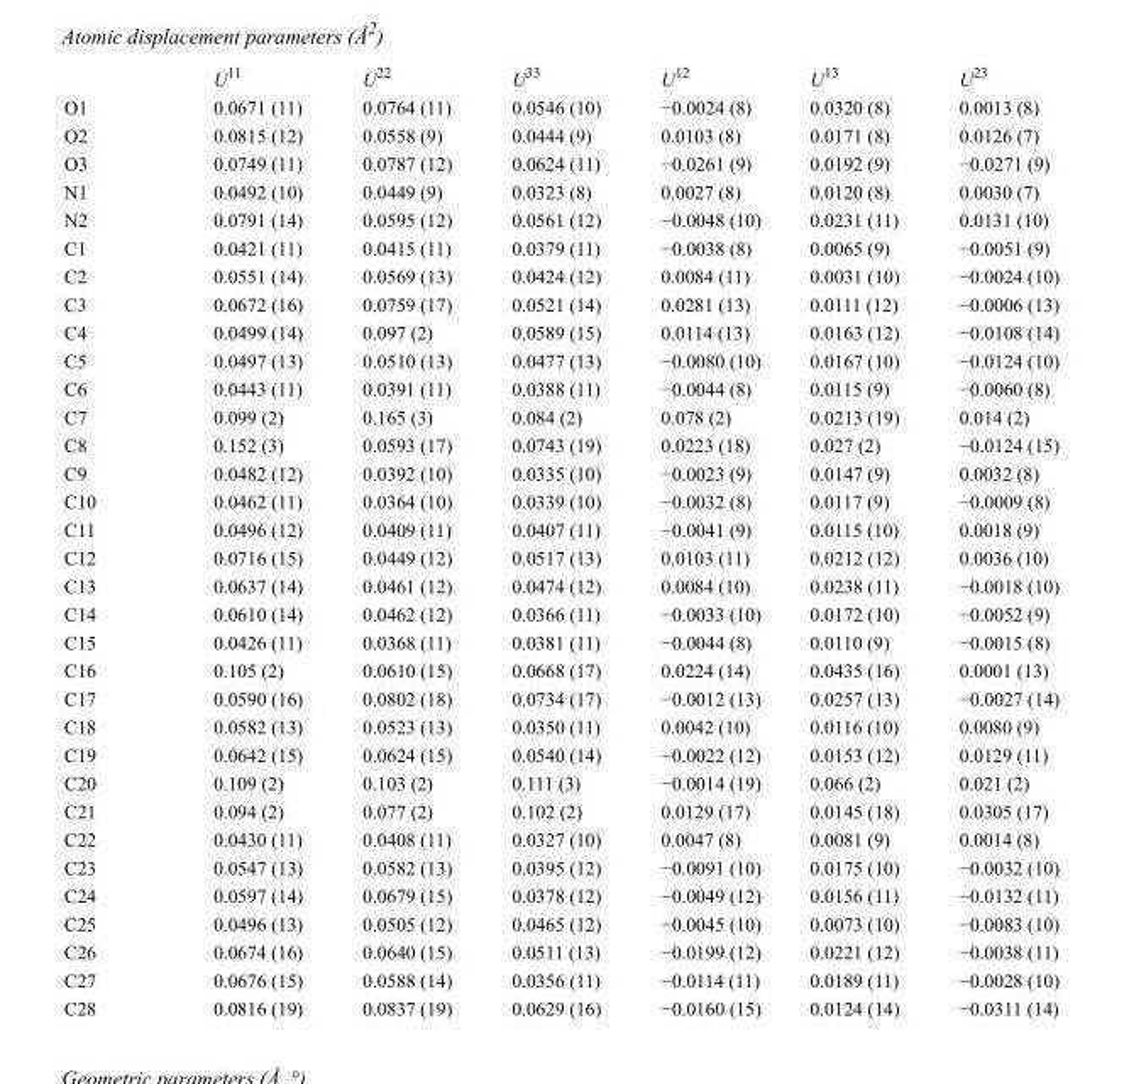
<table><thead><tr><td></td><td>U<sup>11</sup></td><td>U<sup>22</sup></td><td>U<sup>33</sup></td><td>U<sup>12</sup></td><td>U<sup>13</sup></td><td>U<sup>23</sup></td></tr></thead><tbody><tr><td>O1</td><td>0.0671 (11)</td><td>0.0764 (11)</td><td>0.0546 (10)</td><td>−0.0024 (8)</td><td>0.0320 (8)</td><td>0.0013 (8)</td></tr><tr><td>O2</td><td>0.0815 (12)</td><td>0.0558 (9)</td><td>0.0444 (9)</td><td>0.0103 (8)</td><td>0.0171 (8)</td><td>0.0126 (7)</td></tr><tr><td>O3</td><td>0.0749 (11)</td><td>0.0787 (12)</td><td>0.0624 (11)</td><td>−0.0261 (9)</td><td>0.0192 (9)</td><td>−0.0271 (9)</td></tr><tr><td>N1</td><td>0.0492 (10)</td><td>0.0449 (9)</td><td>0.0323 (8)</td><td>0.0027 (8)</td><td>0.0120 (8)</td><td>0.0030 (7)</td></tr><tr><td>N2</td><td>0.0791 (14)</td><td>0.0595 (12)</td><td>0.0561 (12)</td><td>−0.0048 (10)</td><td>0.0231 (11)</td><td>0.0131 (10)</td></tr><tr><td>C1</td><td>0.0421 (11)</td><td>0.0415 (11)</td><td>0.0379 (11)</td><td>−0.0038 (8)</td><td>0.0065 (9)</td><td>−0.0051 (9)</td></tr><tr><td>C2</td><td>0.0551 (14)</td><td>0.0569 (13)</td><td>0.0424 (12)</td><td>0.0084 (11)</td><td>0.0031 (10)</td><td>−0.0024 (10)</td></tr><tr><td>C3</td><td>0.0672 (16)</td><td>0.0759 (17)</td><td>0.0521 (14)</td><td>0.0281 (13)</td><td>0.0111 (12)</td><td>−0.0006 (13)</td></tr><tr><td>C4</td><td>0.0499 (14)</td><td>0.097 (2)</td><td>0.0589 (15)</td><td>0.0114 (13)</td><td>0.0163 (12)</td><td>−0.0108 (14)</td></tr><tr><td>C5</td><td>0.0497 (13)</td><td>0.0510 (13)</td><td>0.0477 (13)</td><td>−0.0080 (10)</td><td>0.0167 (10)</td><td>−0.0124 (10)</td></tr><tr><td>C6</td><td>0.0443 (11)</td><td>0.0391 (11)</td><td>0.0388 (11)</td><td>−0.0044 (8)</td><td>0.0115 (9)</td><td>−0.0060 (8)</td></tr><tr><td>C7</td><td>0.099 (2)</td><td>0.165 (3)</td><td>0.084 (2)</td><td>0.078 (2)</td><td>0.0213 (19)</td><td>0.014 (2)</td></tr><tr><td>C8</td><td>0.152 (3)</td><td>0.0593 (17)</td><td>0.0743 (19)</td><td>0.0223 (18)</td><td>0.027 (2)</td><td>−0.0124 (15)</td></tr><tr><td>C9</td><td>0.0482 (12)</td><td>0.0392 (10)</td><td>0.0335 (10)</td><td>−0.0023 (9)</td><td>0.0147 (9)</td><td>0.0032 (8)</td></tr><tr><td>C10</td><td>0.0462 (11)</td><td>0.0364 (10)</td><td>0.0339 (10)</td><td>−0.0032 (8)</td><td>0.0117 (9)</td><td>−0.0009 (8)</td></tr><tr><td>C11</td><td>0.0496 (12)</td><td>0.0409 (11)</td><td>0.0407 (11)</td><td>−0.0041 (9)</td><td>0.0115 (10)</td><td>0.0018 (9)</td></tr><tr><td>C12</td><td>0.0716 (15)</td><td>0.0449 (12)</td><td>0.0517 (13)</td><td>0.0103 (11)</td><td>0.0212 (12)</td><td>0.0036 (10)</td></tr><tr><td>C13</td><td>0.0637 (14)</td><td>0.0461 (12)</td><td>0.0474 (12)</td><td>0.0084 (10)</td><td>0.0238 (11)</td><td>−0.0018 (10)</td></tr><tr><td>C14</td><td>0.0610 (14)</td><td>0.0462 (12)</td><td>0.0366 (11)</td><td>−0.0033 (10)</td><td>0.0172 (10)</td><td>−0.0052 (9)</td></tr><tr><td>C15</td><td>0.0426 (11)</td><td>0.0368 (11)</td><td>0.0381 (11)</td><td>−0.0044 (8)</td><td>0.0110 (9)</td><td>−0.0015 (8)</td></tr><tr><td>C16</td><td>0.105 (2)</td><td>0.0610 (15)</td><td>0.0668 (17)</td><td>0.0224 (14)</td><td>0.0435 (16)</td><td>0.0001 (13)</td></tr><tr><td>C17</td><td>0.0590 (16)</td><td>0.0802 (18)</td><td>0.0734 (17)</td><td>−0.0012 (13)</td><td>0.0257 (13)</td><td>−0.0027 (14)</td></tr><tr><td>C18</td><td>0.0582 (13)</td><td>0.0523 (13)</td><td>0.0350 (11)</td><td>0.0042 (10)</td><td>0.0116 (10)</td><td>0.0080 (9)</td></tr><tr><td>C19</td><td>0.0642 (15)</td><td>0.0624 (15)</td><td>0.0540 (14)</td><td>−0.0022 (12)</td><td>0.0153 (12)</td><td>0.0129 (11)</td></tr><tr><td>C20</td><td>0.109 (2)</td><td>0.103 (2)</td><td>0.111 (3)</td><td>−0.0014 (19)</td><td>0.066 (2)</td><td>0.021 (2)</td></tr><tr><td>C21</td><td>0.094 (2)</td><td>0.077 (2)</td><td>0.102 (2)</td><td>0.0129 (17)</td><td>0.0145 (18)</td><td>0.0305 (17)</td></tr><tr><td>C22</td><td>0.0430 (11)</td><td>0.0408 (11)</td><td>0.0327 (10)</td><td>0.0047 (8)</td><td>0.0081 (9)</td><td>0.0014 (8)</td></tr><tr><td>C23</td><td>0.0547 (13)</td><td>0.0582 (13)</td><td>0.0395 (12)</td><td>−0.0091 (10)</td><td>0.0175 (10)</td><td>−0.0032 (10)</td></tr><tr><td>C24</td><td>0.0597 (14)</td><td>0.0679 (15)</td><td>0.0378 (12)</td><td>−0.0049 (12)</td><td>0.0156 (11)</td><td>−0.0132 (11)</td></tr><tr><td>C25</td><td>0.0496 (13)</td><td>0.0505 (12)</td><td>0.0465 (12)</td><td>−0.0045 (10)</td><td>0.0073 (10)</td><td>−0.0083 (10)</td></tr><tr><td>C26</td><td>0.0674 (16)</td><td>0.0640 (15)</td><td>0.0511 (13)</td><td>−0.0199 (12)</td><td>0.0221 (12)</td><td>−0.0038 (11)</td></tr><tr><td>C27</td><td>0.0676 (15)</td><td>0.0588 (14)</td><td>0.0356 (11)</td><td>−0.0114 (11)</td><td>0.0189 (11)</td><td>−0.0028 (10)</td></tr><tr><td>C28</td><td>0.0816 (19)</td><td>0.0837 (19)</td><td>0.0629 (16)</td><td>−0.0160 (15)</td><td>0.0124 (14)</td><td>−0.0311 (14)</td></tr></tbody></table>